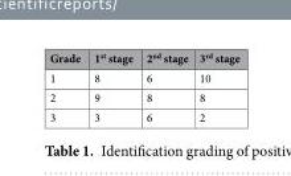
<table><thead><tr><td>Grade</td><td>1<sup>st</sup> stage</td><td>2<sup>nd</sup> stage</td><td>3<sup>rd</sup> stage</td></tr></thead><tbody><tr><td>1</td><td>8</td><td>6</td><td>10</td></tr><tr><td>2</td><td>9</td><td>8</td><td>8</td></tr><tr><td>3</td><td>3</td><td>6</td><td>2</td></tr></tbody></table>